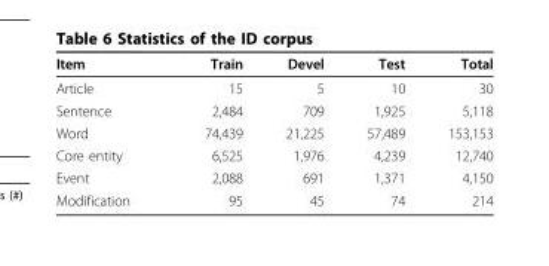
<table><thead><tr><td>Item</td><td>Train</td><td>Devel</td><td>Test</td><td>Total</td></tr></thead><tbody><tr><td>Article</td><td>15</td><td>5</td><td>10</td><td>30</td></tr><tr><td>Sentence</td><td>2,484</td><td>709</td><td>1,925</td><td>5,118</td></tr><tr><td>Word</td><td>74,439</td><td>21,225</td><td>57,489</td><td>153,153</td></tr><tr><td>Core entity</td><td>6,525</td><td>1,976</td><td>4,239</td><td>12,740</td></tr><tr><td>Event</td><td>2,088</td><td>691</td><td>1,371</td><td>4,150</td></tr><tr><td>Modification</td><td>95</td><td>45</td><td>74</td><td>214</td></tr></tbody></table>